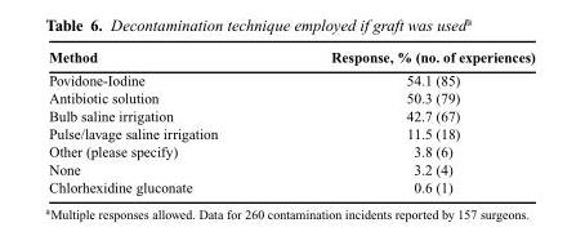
<table><thead><tr><td>Method</td><td>Response, % (no. of experiences)</td></tr></thead><tbody><tr><td>Povidone-Iodine</td><td>54.1 (85)</td></tr><tr><td>Antibiotic solution</td><td>50.3 (79)</td></tr><tr><td>Bulb saline irrigation</td><td>42.7 (67)</td></tr><tr><td>Pulse/lavage saline irrigation</td><td>11.5 (18)</td></tr><tr><td>Other (please specify)</td><td>3.8 (6)</td></tr><tr><td>None</td><td>3.2 (4)</td></tr><tr><td>Chlorhexidine gluconate</td><td>0.6 (1)</td></tr></tbody></table>